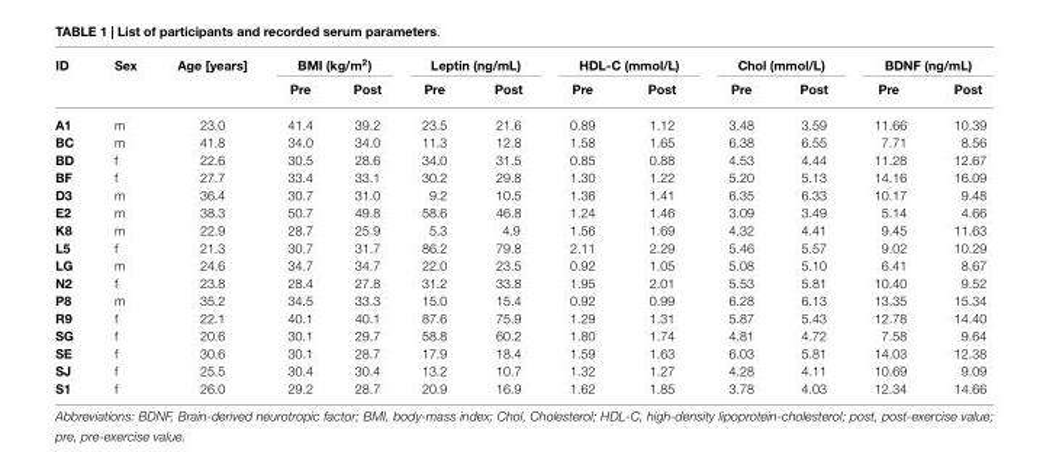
<table><thead><tr><td rowspan="2">ID</td><td rowspan="2">Sex</td><td rowspan="2">Age [years]</td><td colspan="2">BMI (kg/m<sup>2</sup>)</td><td colspan="2">Leptin (ng/mL)</td><td colspan="2">HDL-C (mmol/L)</td><td colspan="2">Chol (mmol/L)</td><td colspan="2">BDNF (ng/mL)</td></tr><tr><td>Pre</td><td>Post</td><td>Pre</td><td>Post</td><td>Pre</td><td>Post</td><td>Pre</td><td>Post</td><td>Pre</td><td>Post</td></tr></thead><tbody><tr><td>A1</td><td>m</td><td>23.0</td><td>41.4</td><td>39.2</td><td>23.5</td><td>21.6</td><td>0.89</td><td>1.12</td><td>3.48</td><td>3.59</td><td>11.66</td><td>10.39</td></tr><tr><td>BC</td><td>m</td><td>41.8</td><td>34.0</td><td>34.0</td><td>11.3</td><td>12.8</td><td>1.58</td><td>1.65</td><td>6.38</td><td>6.55</td><td>7.71</td><td>8.56</td></tr><tr><td>BD</td><td>f</td><td>22.6</td><td>30.5</td><td>28.6</td><td>34.0</td><td>31.5</td><td>0.85</td><td>0.88</td><td>4.53</td><td>4.44</td><td>11.28</td><td>12.67</td></tr><tr><td>BF</td><td>f</td><td>27.7</td><td>33.4</td><td>33.1</td><td>30.2</td><td>29.8</td><td>1.30</td><td>1.22</td><td>5.20</td><td>5.13</td><td>14.16</td><td>16.09</td></tr><tr><td>D3</td><td>m</td><td>36.4</td><td>30.7</td><td>31.0</td><td>9.2</td><td>10.5</td><td>1.36</td><td>1.41</td><td>6.35</td><td>6.33</td><td>10.17</td><td>9.48</td></tr><tr><td>E2</td><td>m</td><td>38.3</td><td>50.7</td><td>49.8</td><td>58.6</td><td>46.8</td><td>1.24</td><td>1.46</td><td>3.09</td><td>3.49</td><td>5.14</td><td>4.66</td></tr><tr><td>K8</td><td>m</td><td>22.9</td><td>28.7</td><td>25.9</td><td>5.3</td><td>4.9</td><td>1.56</td><td>1.69</td><td>4.32</td><td>4.41</td><td>9.45</td><td>11.63</td></tr><tr><td>L5</td><td>f</td><td>21.3</td><td>30.7</td><td>31.7</td><td>86.2</td><td>79.8</td><td>2.11</td><td>2.29</td><td>5.46</td><td>5.57</td><td>9.02</td><td>10.29</td></tr><tr><td>LG</td><td>m</td><td>24.6</td><td>34.7</td><td>34.7</td><td>22.0</td><td>23.5</td><td>0.92</td><td>1.05</td><td>5.08</td><td>5.10</td><td>6.41</td><td>8.67</td></tr><tr><td>N2</td><td>f</td><td>23.8</td><td>28.4</td><td>27.8</td><td>31.2</td><td>33.8</td><td>1.95</td><td>2.01</td><td>5.53</td><td>5.81</td><td>10.40</td><td>9.52</td></tr><tr><td>P8</td><td>m</td><td>35.2</td><td>34.5</td><td>33.3</td><td>15.0</td><td>15.4</td><td>0.92</td><td>0.99</td><td>6.28</td><td>6.13</td><td>13.35</td><td>15.34</td></tr><tr><td>R9</td><td>f</td><td>22.1</td><td>40.1</td><td>40.1</td><td>87.6</td><td>75.9</td><td>1.29</td><td>1.31</td><td>5.87</td><td>5.43</td><td>12.78</td><td>14.40</td></tr><tr><td>SG</td><td>f</td><td>20.6</td><td>30.1</td><td>29.7</td><td>58.8</td><td>60.2</td><td>1.80</td><td>1.74</td><td>4.81</td><td>4.72</td><td>7.58</td><td>9.64</td></tr><tr><td>SE</td><td>f</td><td>30.6</td><td>30.1</td><td>28.7</td><td>17.9</td><td>18.4</td><td>1.59</td><td>1.63</td><td>6.03</td><td>5.81</td><td>14.03</td><td>12.38</td></tr><tr><td>SJ</td><td>f</td><td>25.5</td><td>30.4</td><td>30.4</td><td>13.2</td><td>10.7</td><td>1.32</td><td>1.27</td><td>4.28</td><td>4.11</td><td>10.69</td><td>9.09</td></tr><tr><td>S1</td><td>f</td><td>26.0</td><td>29.2</td><td>28.7</td><td>20.9</td><td>16.9</td><td>1.62</td><td>1.85</td><td>3.78</td><td>4.03</td><td>12.34</td><td>14.66</td></tr></tbody></table>